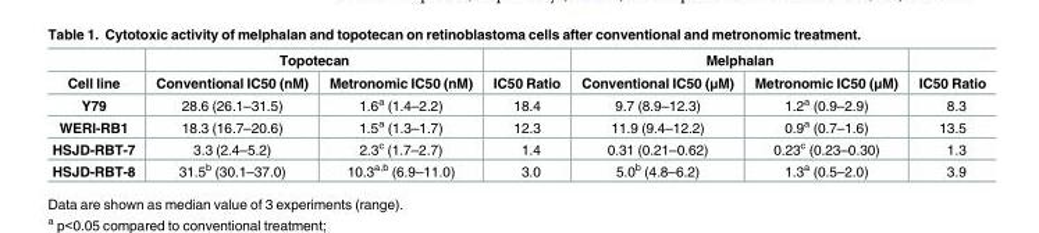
<table><thead><tr><td rowspan="2">Cell line</td><td colspan="2">Topotecan</td><td rowspan="2">IC50 Ratio</td><td colspan="2">Melphalan</td><td rowspan="2">IC50 Ratio</td></tr><tr><td>Conventional IC50 (nM)</td><td>Metronomic IC50 (nM)</td><td>Conventional IC50 (μM)</td><td>Metronomic IC50 (μM)</td></tr></thead><tbody><tr><td>Y79</td><td>28.6 (26.1–31.5)</td><td>1.6<sup>a</sup> (1.4–2.2)</td><td>18.4</td><td>9.7 (8.9–12.3)</td><td>1.2<sup>a</sup> (0.9–2.9)</td><td>8.3</td></tr><tr><td>WERI-RB1</td><td>18.3 (16.7–20.6)</td><td>1.5<sup>a</sup> (1.3–1.7)</td><td>12.3</td><td>11.9 (9.4–12.2)</td><td>0.9<sup>a</sup> (0.7–1.6)</td><td>13.5</td></tr><tr><td>HSJD-RBT-7</td><td>3.3 (2.4–5.2)</td><td>2.3<sup>c</sup> (1.7–2.7)</td><td>1.4</td><td>0.31 (0.21–0.62)</td><td>0.23<sup>c</sup> (0.23–0.30)</td><td>1.3</td></tr><tr><td>HSJD-RBT-8</td><td>31.5<sup>b</sup> (30.1–37.0)</td><td>10.3<sup>a,b</sup> (6.9–11.0)</td><td>3.0</td><td>5.0<sup>b</sup> (4.8–6.2)</td><td>1.3<sup>a</sup> (0.5–2.0)</td><td>3.9</td></tr></tbody></table>